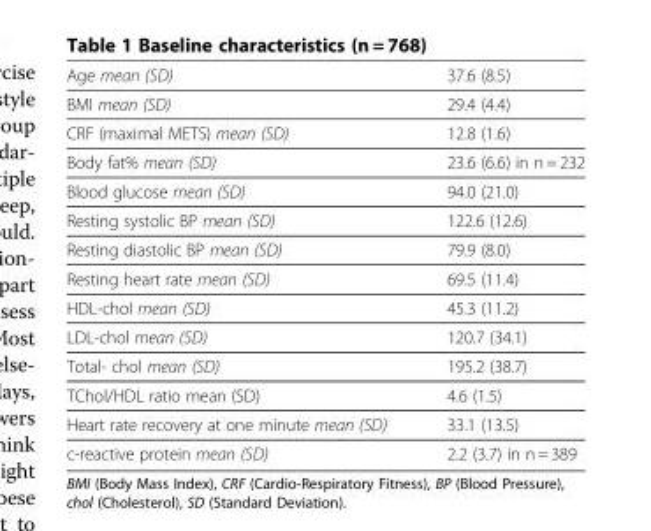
<table><tbody><tr><td>Age mean (SD)</td><td>37.6 (8.5)</td></tr><tr><td>BMI mean (SD)</td><td>29.4 (4.4)</td></tr><tr><td>CRF (maximal METS) mean (SD)</td><td>12.8 (1.6)</td></tr><tr><td>Body fat% mean (SD)</td><td>23.6 (6.6) in n = 232</td></tr><tr><td>Blood glucose mean (SD)</td><td>94.0 (21.0)</td></tr><tr><td>Resting systolic BP mean (SD)</td><td>122.6 (12.6)</td></tr><tr><td>Resting diastolic BP mean (SD)</td><td>79.9 (8.0)</td></tr><tr><td>Resting heart rate mean (SD)</td><td>69.5 (11.4)</td></tr><tr><td>HDL-chol mean (SD)</td><td>45.3 (11.2)</td></tr><tr><td>LDL-chol mean (SD)</td><td>120.7 (34.1)</td></tr><tr><td>Total- chol mean (SD)</td><td>195.2 (38.7)</td></tr><tr><td>TChol/HDL ratio mean (SD)</td><td>4.6 (1.5)</td></tr><tr><td>Heart rate recovery at one minute mean (SD)</td><td>33.1 (13.5)</td></tr><tr><td>c-reactive protein mean (SD)</td><td>2.2 (3.7) in n = 389</td></tr></tbody></table>